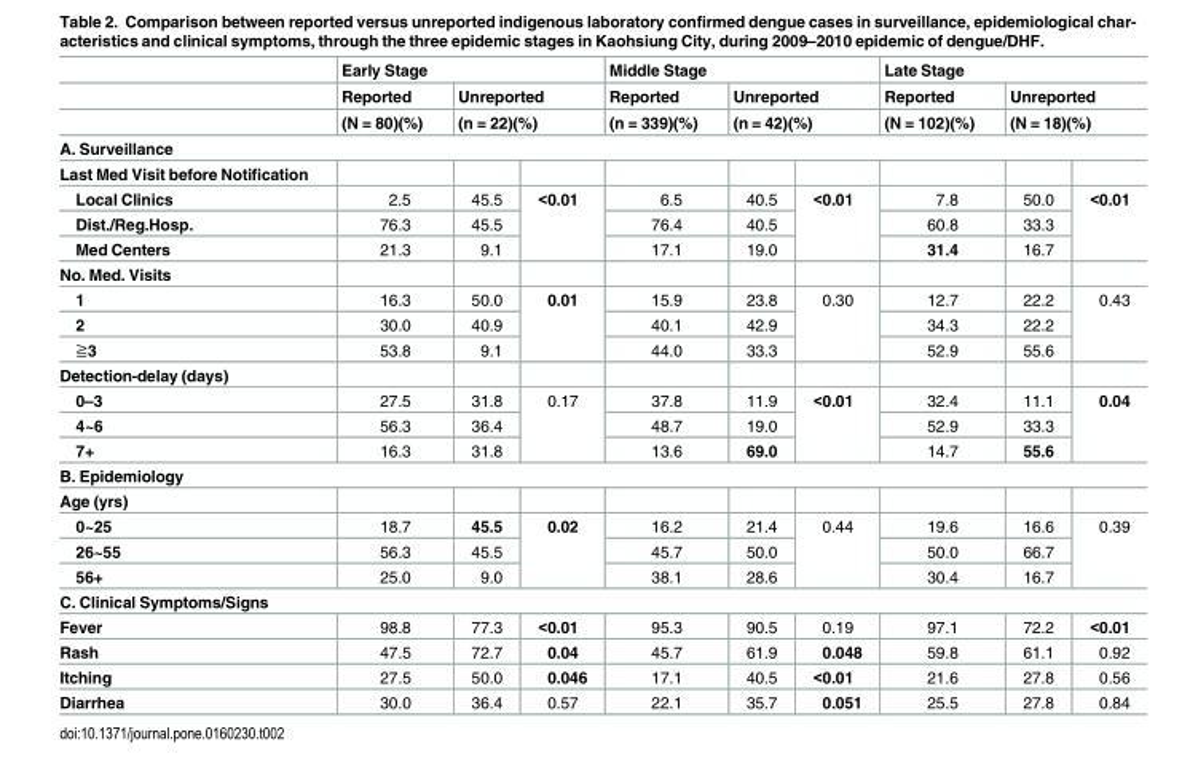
<table><thead><tr><td rowspan="3"></td><td colspan="3">Early Stage</td><td colspan="3">Middle Stage</td><td colspan="3">Late Stage</td></tr><tr><td rowspan="2">Reported (N = 80)(%)</td><td rowspan="2" colspan="2">Unreported (n = 22)(%)</td><td rowspan="2">Reported (n = 339)(%)</td><td rowspan="2" colspan="2">Unreported (n = 42)(%)</td><td rowspan="2">Reported (N = 102)(%)</td><td rowspan="2" colspan="2">Unreported (N = 18)(%)</td></tr><tr></tr><tr><td colspan="10">A. Surveillance</td></tr><tr><td>Last Med Visit before Notification</td><td></td><td></td><td></td><td></td><td></td><td></td><td></td><td></td><td></td></tr></thead><tbody><tr><td>Local Clinics</td><td>2.5</td><td>45.5</td><td rowspan="3">&lt;0.01</td><td>6.5</td><td>40.5</td><td rowspan="3">&lt;0.01</td><td>7.8</td><td>50.0</td><td rowspan="3">&lt;0.01</td></tr><tr><td>Dist./Reg.Hosp.</td><td>76.3</td><td>45.5</td><td>76.4</td><td>40.5</td><td>60.8</td><td>33.3</td></tr><tr><td>Med Centers</td><td>21.3</td><td>9.1</td><td>17.1</td><td>19.0</td><td>31.4</td><td>16.7</td></tr><tr><td colspan="10">No. Med. Visits</td></tr><tr><td>1</td><td>16.3</td><td>50.0</td><td rowspan="3">0.01</td><td>15.9</td><td>23.8</td><td rowspan="3">0.30</td><td>12.7</td><td>22.2</td><td rowspan="3">0.43</td></tr><tr><td>2</td><td>30.0</td><td>40.9</td><td>40.1</td><td>42.9</td><td>34.3</td><td>22.2</td></tr><tr><td>≧3</td><td>53.8</td><td>9.1</td><td>44.0</td><td>33.3</td><td>52.9</td><td>55.6</td></tr><tr><td colspan="10">Detection-delay (days)</td></tr><tr><td>0–3</td><td>27.5</td><td>31.8</td><td rowspan="3">0.17</td><td>37.8</td><td>11.9</td><td rowspan="3">&lt;0.01</td><td>32.4</td><td>11.1</td><td rowspan="3">0.04</td></tr><tr><td>4~6</td><td>56.3</td><td>36.4</td><td>48.7</td><td>19.0</td><td>52.9</td><td>33.3</td></tr><tr><td>7+</td><td>16.3</td><td>31.8</td><td>13.6</td><td>69.0</td><td>14.7</td><td>55.6</td></tr><tr><td colspan="10">B. Epidemiology</td></tr><tr><td colspan="10">Age (yrs)</td></tr><tr><td>0~25</td><td>18.7</td><td>45.5</td><td rowspan="3">0.02</td><td>16.2</td><td>21.4</td><td rowspan="3">0.44</td><td>19.6</td><td>16.6</td><td rowspan="3">0.39</td></tr><tr><td>26~55</td><td>56.3</td><td>45.5</td><td>45.7</td><td>50.0</td><td>50.0</td><td>66.7</td></tr><tr><td>56+</td><td>25.0</td><td>9.0</td><td>38.1</td><td>28.6</td><td>30.4</td><td>16.7</td></tr><tr><td colspan="10">C. Clinical Symptoms/Signs</td></tr><tr><td>Fever</td><td>98.8</td><td>77.3</td><td>&lt;0.01</td><td>95.3</td><td>90.5</td><td>0.19</td><td>97.1</td><td>72.2</td><td>&lt;0.01</td></tr><tr><td>Rash</td><td>47.5</td><td>72.7</td><td>0.04</td><td>45.7</td><td>61.9</td><td>0.048</td><td>59.8</td><td>61.1</td><td>0.92</td></tr><tr><td>Itching</td><td>27.5</td><td>50.0</td><td>0.046</td><td>17.1</td><td>40.5</td><td>&lt;0.01</td><td>21.6</td><td>27.8</td><td>0.56</td></tr><tr><td>Diarrhea</td><td>30.0</td><td>36.4</td><td>0.57</td><td>22.1</td><td>35.7</td><td>0.051</td><td>25.5</td><td>27.8</td><td>0.84</td></tr></tbody></table>